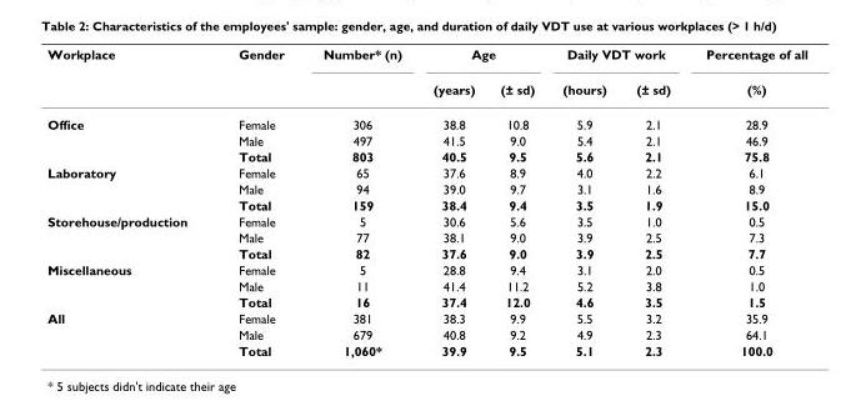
<table><thead><tr><td rowspan="2">Workplace</td><td rowspan="2">Gender</td><td rowspan="2">Number* (n)</td><td colspan="2">Age</td><td colspan="2">Daily VDT work</td><td rowspan="2">Percentage of all (%)</td></tr><tr><td>(years)</td><td>(± sd)</td><td>(hours)</td><td>(± sd)</td></tr></thead><tbody><tr><td rowspan="3">Office</td><td>Female</td><td>306</td><td>38.8</td><td>10.8</td><td>5.9</td><td>2.1</td><td>28.9</td></tr><tr><td>Male</td><td>497</td><td>41.5</td><td>9.0</td><td>5.4</td><td>2.1</td><td>46.9</td></tr><tr><td>Total</td><td>803</td><td>40.5</td><td>9.5</td><td>5.6</td><td>2.1</td><td>75.8</td></tr><tr><td rowspan="3">Laboratory</td><td>Female</td><td>65</td><td>37.6</td><td>8.9</td><td>4.0</td><td>2.2</td><td>6.1</td></tr><tr><td>Male</td><td>94</td><td>39.0</td><td>9.7</td><td>3.1</td><td>1.6</td><td>8.9</td></tr><tr><td>Total</td><td>159</td><td>38.4</td><td>9.4</td><td>3.5</td><td>1.9</td><td>15.0</td></tr><tr><td rowspan="3">Storehouse/production</td><td>Female</td><td>5</td><td>30.6</td><td>5.6</td><td>3.5</td><td>1.0</td><td>0.5</td></tr><tr><td>Male</td><td>77</td><td>38.1</td><td>9.0</td><td>3.9</td><td>2.5</td><td>7.3</td></tr><tr><td>Total</td><td>82</td><td>37.6</td><td>9.0</td><td>3.9</td><td>2.5</td><td>7.7</td></tr><tr><td rowspan="3">Miscellaneous</td><td>Female</td><td>5</td><td>28.8</td><td>9.4</td><td>3.1</td><td>2.0</td><td>0.5</td></tr><tr><td>Male</td><td>11</td><td>41.4</td><td>11.2</td><td>5.2</td><td>3.8</td><td>1.0</td></tr><tr><td>Total</td><td>16</td><td>37.4</td><td>12.0</td><td>4.6</td><td>3.5</td><td>1.5</td></tr><tr><td rowspan="3">All</td><td>Female</td><td>381</td><td>38.3</td><td>9.9</td><td>5.5</td><td>3.2</td><td>35.9</td></tr><tr><td>Male</td><td>679</td><td>40.8</td><td>9.2</td><td>4.9</td><td>2.3</td><td>64.1</td></tr><tr><td>Total</td><td>1,060*</td><td>39.9</td><td>9.5</td><td>5.1</td><td>2.3</td><td>100.0</td></tr></tbody></table>